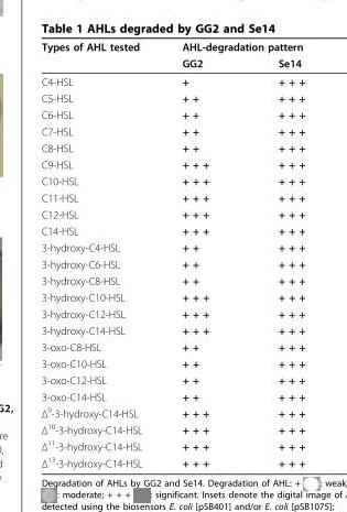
<table><thead><tr><td rowspan="2">Types of AHL tested</td><td colspan="2">AHL-degradation pattern</td></tr><tr><td>GG2</td><td>Se14</td></tr></thead><tbody><tr><td>C4-HSL</td><td>+</td><td>+ + +</td></tr><tr><td>C5-HSL</td><td>+ +</td><td>+ + +</td></tr><tr><td>C6-HSL</td><td>+ +</td><td>+ + +</td></tr><tr><td>C7-HSL</td><td>+ +</td><td>+ + +</td></tr><tr><td>C8-HSL</td><td>+ +</td><td>+ + +</td></tr><tr><td>C9-HSL</td><td>+ + +</td><td>+ + +</td></tr><tr><td>C10-HSL</td><td>+ + +</td><td>+ + +</td></tr><tr><td>C11-HSL</td><td>+ + +</td><td>+ + +</td></tr><tr><td>C12-HSL</td><td>+ + +</td><td>+ + +</td></tr><tr><td>C14-HSL</td><td>+ + +</td><td>+ + +</td></tr><tr><td>3-hydroxy-C4-HSL</td><td>+ +</td><td>+ + +</td></tr><tr><td>3-hydroxy-C6-HSL</td><td>+ +</td><td>+ + +</td></tr><tr><td>3-hydroxy-C8-HSL</td><td>+ +</td><td>+ + +</td></tr><tr><td>3-hydroxy-C10-HSL</td><td>+ + +</td><td>+ + +</td></tr><tr><td>3-hydroxy-C12-HSL</td><td>+ + +</td><td>+ + +</td></tr><tr><td>3-hydroxy-C14-HSL</td><td>+ + +</td><td>+ + +</td></tr><tr><td>3-oxo-C8-HSL</td><td>+ +</td><td>+ + +</td></tr><tr><td>3-oxo-C10-HSL</td><td>+ +</td><td>+ + +</td></tr><tr><td>3-oxo-C12-HSL</td><td>+ +</td><td>+ + +</td></tr><tr><td>3-oxo-C14-HSL</td><td>+ +</td><td>+ + +</td></tr><tr><td>Δ<sup>9</sup>-3-hydroxy-C14-HSL</td><td>+ + +</td><td>+ + +</td></tr><tr><td>Δ<sup>10</sup>-3-hydroxy-C14-HSL</td><td>+ + +</td><td>+ + +</td></tr><tr><td>Δ<sup>11</sup>-3-hydroxy-C14-HSL</td><td>+ + +</td><td>+ + +</td></tr><tr><td>Δ<sup>13</sup>-3-hydroxy-C14-HSL</td><td>+ + +</td><td>+ + +</td></tr></tbody></table>